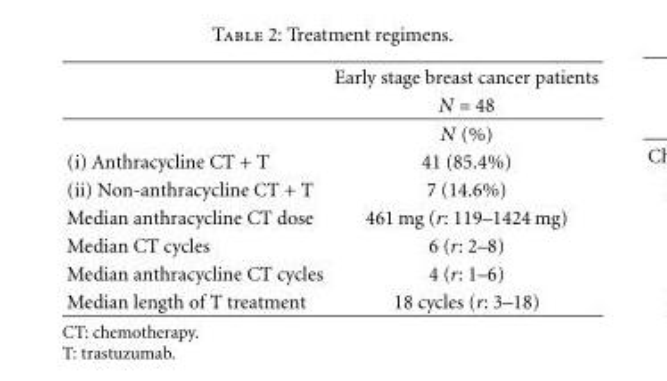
<table><thead><tr><td rowspan="2"></td><td rowspan="2">Early stage breast cancer patients N = 48</td></tr><tr></tr></thead><tbody><tr><td></td><td>N (%)</td></tr><tr><td>(i) Anthracycline CT + T</td><td>41 (85.4%)</td></tr><tr><td>(ii) Non-anthracycline CT + T</td><td>7 (14.6%)</td></tr><tr><td>Median anthracycline CT dose</td><td>461 mg (r: 119–1424 mg)</td></tr><tr><td>Median CT cycles</td><td>6 (r: 2–8)</td></tr><tr><td>Median anthracycline CT cycles</td><td>4 (r: 1–6)</td></tr><tr><td>Median length of T treatment</td><td>18 cycles (r: 3–18)</td></tr></tbody></table>